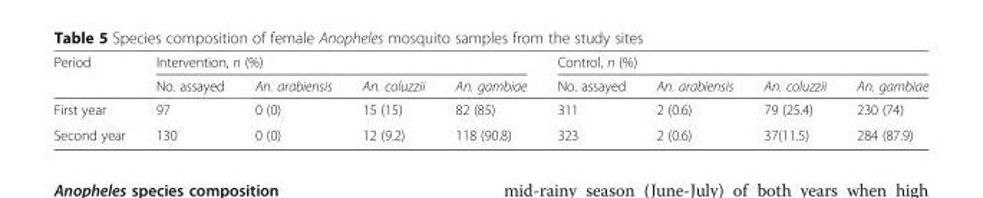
<table><thead><tr><td rowspan="2">Period</td><td colspan="4">Intervention, n (%)</td><td colspan="4">Control, n (%)</td></tr><tr><td>No. assayed</td><td>An. arabiensis</td><td>An. coluzzii</td><td>An. gambiae</td><td>No. assayed</td><td>An. arabiensis</td><td>An. coluzzii</td><td>An. gambiae</td></tr></thead><tbody><tr><td>First year</td><td>97</td><td>0 (0)</td><td>15 (15)</td><td>82 (85)</td><td>311</td><td>2 (0.6)</td><td>79 (25.4)</td><td>230 (74)</td></tr><tr><td>Second year</td><td>130</td><td>0 (0)</td><td>12 (9.2)</td><td>118 (90.8)</td><td>323</td><td>2 (0.6)</td><td>37(11.5)</td><td>284 (87.9)</td></tr></tbody></table>